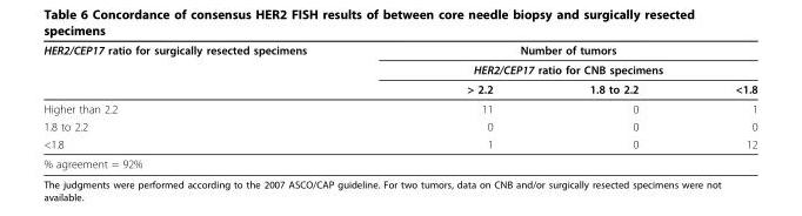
<table><thead><tr><td rowspan="3">HER2/CEP17 ratio for surgically resected specimens</td><td rowspan="2" colspan="3">Number of tumors HER2/CEP17 ratio for CNB specimens</td></tr><tr></tr><tr><td>&gt; 2.2</td><td>1.8 to 2.2</td><td>&lt;1.8</td></tr></thead><tbody><tr><td>Higher than 2.2</td><td>11</td><td>0</td><td>1</td></tr><tr><td>1.8 to 2.2</td><td>0</td><td>0</td><td>0</td></tr><tr><td>&lt;1.8</td><td>1</td><td>0</td><td>12</td></tr><tr><td>% agreement = 92%</td><td></td><td></td><td></td></tr></tbody></table>